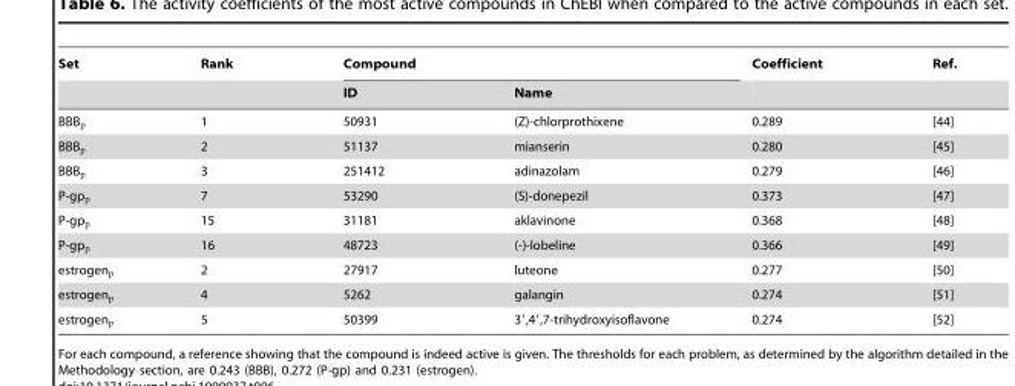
<table><thead><tr><td rowspan="2">Set</td><td rowspan="2">Rank</td><td colspan="2">Compound</td><td rowspan="2">Coefficient</td><td rowspan="2">Ref.</td></tr><tr><td>ID</td><td>Name</td></tr></thead><tbody><tr><td>BBBp</td><td>1</td><td>50931</td><td>(Z)-chlorprothixene</td><td>0.289</td><td>[44]</td></tr><tr><td>BBBp</td><td>2</td><td>51137</td><td>mianserin</td><td>0.280</td><td>[45]</td></tr><tr><td>BBBp</td><td>3</td><td>251412</td><td>adinazolam</td><td>0.279</td><td>[46]</td></tr><tr><td>P-gpp</td><td>7</td><td>53290</td><td>(S)-donepezil</td><td>0.373</td><td>[47]</td></tr><tr><td>P-gpp</td><td>15</td><td>31181</td><td>aklavinone</td><td>0.368</td><td>[48]</td></tr><tr><td>P-gpp</td><td>16</td><td>48723</td><td>(-)-lobeline</td><td>0.366</td><td>[49]</td></tr><tr><td>estrogenp</td><td>2</td><td>27917</td><td>luteone</td><td>0.277</td><td>[50]</td></tr><tr><td>estrogenp</td><td>4</td><td>5262</td><td>galangin</td><td>0.274</td><td>[51]</td></tr><tr><td>estrogenp</td><td>5</td><td>50399</td><td>3′,4′,7-trihydroxyisoflavone</td><td>0.274</td><td>[52]</td></tr></tbody></table>